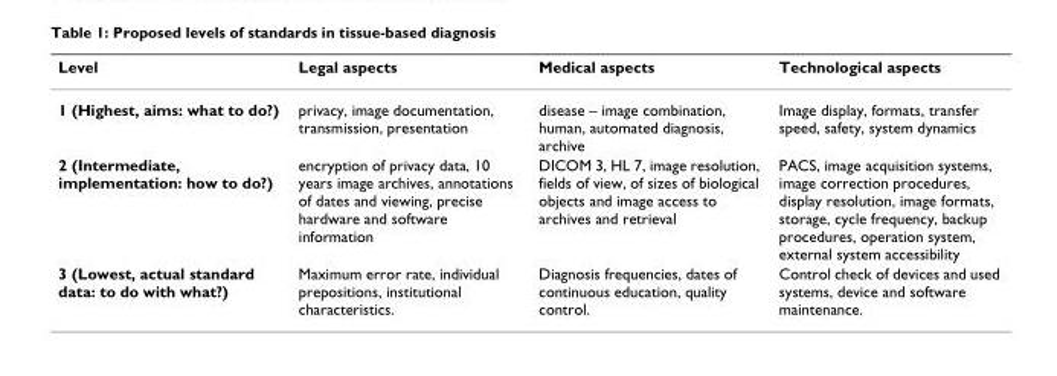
<table><thead><tr><td>Level</td><td>Legal aspects</td><td>Medical aspects</td><td>Technological aspects</td></tr></thead><tbody><tr><td>1 (Highest, aims: what to do?)</td><td>privacy, image documentation, transmission, presentation</td><td>disease – image combination, human, automated diagnosis, archive</td><td>Image display, formats, transfer speed, safety, system dynamics</td></tr><tr><td>2 (Intermediate, implementation: how to do?)</td><td>encryption of privacy data, 10 years image archives, annotations of dates and viewing, precise hardware and software information</td><td>DICOM 3, HL 7, image resolution, fields of view, of sizes of biological objects and image access to archives and retrieval</td><td>PACS, image acquisition systems, image correction procedures, display resolution, image formats, storage, cycle frequency, backup procedures, operation system, external system accessibility</td></tr><tr><td>3 (Lowest, actual standard data: to do with what?)</td><td>Maximum error rate, individual prepositions, institutional characteristics.</td><td>Diagnosis frequencies, dates of continuous education, quality control.</td><td>Control check of devices and used systems, device and software maintenance.</td></tr></tbody></table>